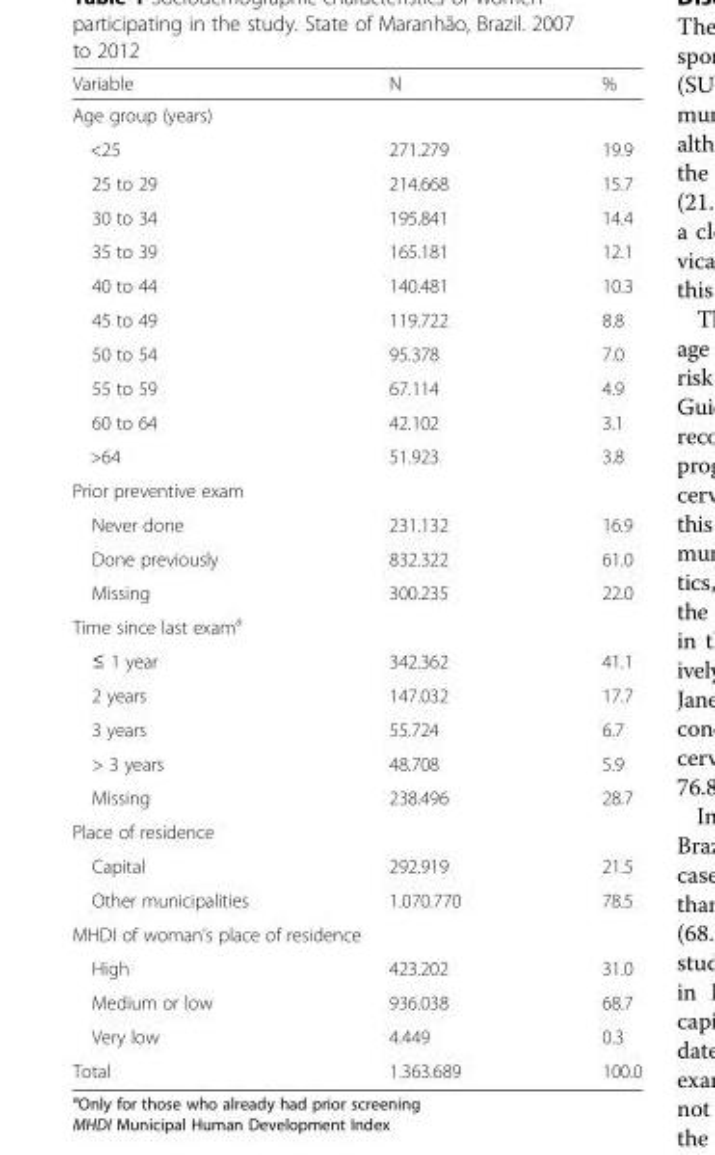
<table><thead><tr><td>Variable</td><td>N</td><td>%</td></tr></thead><tbody><tr><td colspan="3">Age group (years)</td></tr><tr><td>&lt;25</td><td>271.279</td><td>19.9</td></tr><tr><td>25 to 29</td><td>214.668</td><td>15.7</td></tr><tr><td>30 to 34</td><td>195.841</td><td>14.4</td></tr><tr><td>35 to 39</td><td>165.181</td><td>12.1</td></tr><tr><td>40 to 44</td><td>140.481</td><td>10.3</td></tr><tr><td>45 to 49</td><td>119.722</td><td>8.8</td></tr><tr><td>50 to 54</td><td>95.378</td><td>7.0</td></tr><tr><td>55 to 59</td><td>67.114</td><td>4.9</td></tr><tr><td>60 to 64</td><td>42.102</td><td>3.1</td></tr><tr><td>&gt;64</td><td>51.923</td><td>3.8</td></tr><tr><td colspan="3">Prior preventive exam</td></tr><tr><td>Never done</td><td>231.132</td><td>16.9</td></tr><tr><td>Done previously</td><td>832.322</td><td>61.0</td></tr><tr><td>Missing</td><td>300.235</td><td>22.0</td></tr><tr><td colspan="3">Time since last exam<sup>a</sup></td></tr><tr><td>≤ 1 year</td><td>342.362</td><td>41.1</td></tr><tr><td>2 years</td><td>147.032</td><td>17.7</td></tr><tr><td>3 years</td><td>55.724</td><td>6.7</td></tr><tr><td>&gt; 3 years</td><td>48.708</td><td>5.9</td></tr><tr><td>Missing</td><td>238.496</td><td>28.7</td></tr><tr><td colspan="3">Place of residence</td></tr><tr><td>Capital</td><td>292.919</td><td>21.5</td></tr><tr><td>Other municipalities</td><td>1.070.770</td><td>78.5</td></tr><tr><td colspan="3">MHDI of woman’s place of residence</td></tr><tr><td>High</td><td>423.202</td><td>31.0</td></tr><tr><td>Medium or low</td><td>936.038</td><td>68.7</td></tr><tr><td>Very low</td><td>4.449</td><td>0.3</td></tr><tr><td>Total</td><td>1.363.689</td><td>100.0</td></tr></tbody></table>